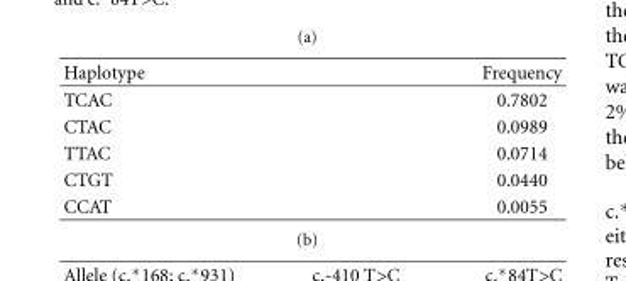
<table><thead><tr><td>Haplotype</td><td>Frequency</td></tr></thead><tbody><tr><td>TCAC</td><td>0.7802</td></tr><tr><td>CTAC</td><td>0.0989</td></tr><tr><td>TTAC</td><td>0.0714</td></tr><tr><td>CTGT</td><td>0.0440</td></tr><tr><td>CCAT</td><td>0.0055</td></tr></tbody></table>